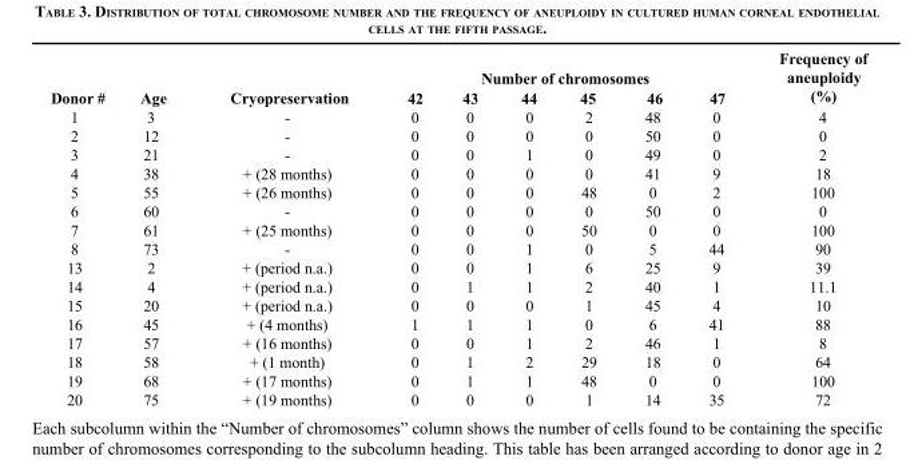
<table><tbody><tr><td rowspan="2">Donor #</td><td rowspan="2">Age</td><td rowspan="2">Cryopreservation</td><td colspan="6">Number of chromosomes</td><td rowspan="2">Frequency of aneuploidy (%)</td></tr><tr><td>42</td><td>43</td><td>44</td><td>45</td><td>46</td><td>47</td></tr><tr><td>1</td><td>3</td><td>-</td><td>0</td><td>0</td><td>0</td><td>2</td><td>48</td><td>0</td><td>4</td></tr><tr><td>2</td><td>12</td><td>-</td><td>0</td><td>0</td><td>0</td><td>0</td><td>50</td><td>0</td><td>0</td></tr><tr><td>3</td><td>21</td><td>-</td><td>0</td><td>0</td><td>1</td><td>0</td><td>49</td><td>0</td><td>2</td></tr><tr><td>4</td><td>38</td><td>+ (28 months)</td><td>0</td><td>0</td><td>0</td><td>0</td><td>41</td><td>9</td><td>18</td></tr><tr><td>5</td><td>55</td><td>+ (26 months)</td><td>0</td><td>0</td><td>0</td><td>48</td><td>0</td><td>2</td><td>100</td></tr><tr><td>6</td><td>60</td><td>-</td><td>0</td><td>0</td><td>0</td><td>0</td><td>50</td><td>0</td><td>0</td></tr><tr><td>7</td><td>61</td><td>+ (25 months)</td><td>0</td><td>0</td><td>0</td><td>50</td><td>0</td><td>0</td><td>100</td></tr><tr><td>8</td><td>73</td><td>-</td><td>0</td><td>0</td><td>1</td><td>0</td><td>5</td><td>44</td><td>90</td></tr><tr><td>13</td><td>2</td><td>+ (period n.a.)</td><td>0</td><td>0</td><td>1</td><td>6</td><td>25</td><td>9</td><td>39</td></tr><tr><td>14</td><td>4</td><td>+ (period n.a.)</td><td>0</td><td>1</td><td>1</td><td>2</td><td>40</td><td>1</td><td>11.1</td></tr><tr><td>15</td><td>20</td><td>+ (period n.a.)</td><td>0</td><td>0</td><td>0</td><td>1</td><td>45</td><td>4</td><td>10</td></tr><tr><td>16</td><td>45</td><td>+ (4 months)</td><td>1</td><td>1</td><td>1</td><td>0</td><td>6</td><td>41</td><td>88</td></tr><tr><td>17</td><td>57</td><td>+ (16 months)</td><td>0</td><td>0</td><td>1</td><td>2</td><td>46</td><td>1</td><td>8</td></tr><tr><td>18</td><td>58</td><td>+ (1 month)</td><td>0</td><td>1</td><td>2</td><td>29</td><td>18</td><td>0</td><td>64</td></tr><tr><td>19</td><td>68</td><td>+ (17 months)</td><td>0</td><td>1</td><td>1</td><td>48</td><td>0</td><td>0</td><td>100</td></tr><tr><td>20</td><td>75</td><td>+ (19 months)</td><td>0</td><td>0</td><td>0</td><td>1</td><td>14</td><td>35</td><td>72</td></tr></tbody></table>